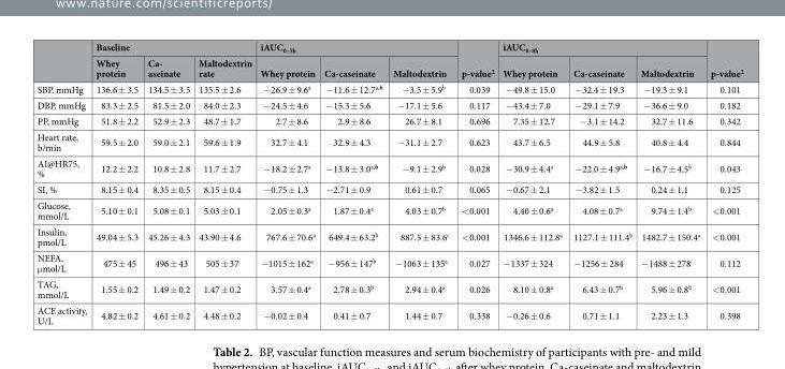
<table><thead><tr><td rowspan="2"></td><td colspan="3">Baseline</td><td colspan="3">iAUC<sub>0–5h</sub></td><td rowspan="2">p-value<sup>2</sup></td><td colspan="3">iAUC<sub>0–8h</sub></td><td rowspan="2">p-value<sup>2</sup></td></tr><tr><td>Whey protein</td><td>Ca- aseinate</td><td>Maltodextrin rate</td><td>Whey protein</td><td>Ca-caseinate</td><td>Maltodextrin</td><td>Whey protein</td><td>Ca-caseinate</td><td>Maltodextrin</td></tr></thead><tbody><tr><td>SBP, mmHg</td><td>136.6 ± 3.5</td><td>134.5 ± 3.5</td><td>135.5 ± 2.6</td><td>−26.9 ± 9.6<sup>a</sup></td><td>−11.6 ± 12.7<sup>a,b</sup></td><td>−3.5 ± 5.9<sup>b</sup></td><td>0.039</td><td>−49.8 ± 15.0</td><td>−32.4 ± 19.3</td><td>−19.3 ± 9.1</td><td>0.101</td></tr><tr><td>DBP, mmHg</td><td>83.3 ± 2.5</td><td>81.5 ± 2.0</td><td>84.0 ± 2.3</td><td>−24.5 ± 4.6</td><td>−15.3 ± 5.6</td><td>−17.1 ± 5.6</td><td>0.117</td><td>−43.4 ± 7.0</td><td>−29.1 ± 7.9</td><td>−36.6 ± 9.0</td><td>0.182</td></tr><tr><td>PP, mmHg</td><td>51.8 ± 2.2</td><td>52.9 ± 2.3</td><td>48.7 ± 1.7</td><td>2.7 ± 8.6</td><td>2.9 ± 8.6</td><td>26.7 ± 8.1</td><td>0.696</td><td>7.35 ± 12.7</td><td>−3.1 ± 14.2</td><td>32.7 ± 11.6</td><td>0.342</td></tr><tr><td>Heart rate, b/min</td><td>59.5 ± 2.0</td><td>59.0 ± 2.1</td><td>59.6 ± 1.9</td><td>32.7 ± 4.1</td><td>32.9 ± 4.3</td><td>−31.1 ± 2.7</td><td>0.623</td><td>43.7 ± 6.5</td><td>44.9 ± 5.8</td><td>40.8 ± 4.4</td><td>0.844</td></tr><tr><td>AI@HR75, %</td><td>12.2 ± 2.2</td><td>10.8 ± 2.8</td><td>11.7 ± 2.7</td><td>−18.2 ± 2.7<sup>a</sup></td><td>−13.8 ± 3.0<sup>a,b</sup></td><td>−9.1 ± 2.9<sup>b</sup></td><td>0.028</td><td>−30.9 ± 4.4<sup>a</sup></td><td>−22.0 ± 4.9<sup>a,b</sup></td><td>−16.7 ± 4.5<sup>b</sup></td><td>0.043</td></tr><tr><td>SI, %</td><td>8.15 ± 0.4</td><td>8.35 ± 0.5</td><td>8.15 ± 0.4</td><td>−0.75 ± 1.3</td><td>−2.71 ± 0.9</td><td>0.61 ± 0.7</td><td>0.065</td><td>−0.67 ± 2.1</td><td>−3.82 ± 1.5</td><td>0.24 ± 1.1</td><td>0.125</td></tr><tr><td>Glucose, mmol/L</td><td>5.10 ± 0.1</td><td>5.08 ± 0.1</td><td>5.03 ± 0.1</td><td>2.05 ± 0.3<sup>a</sup></td><td>1.87 ± 0.4<sup>a</sup></td><td>4.03 ± 0.7<sup>b</sup></td><td>&lt;0.001</td><td>4.40 ± 0.6<sup>a</sup></td><td>4.08 ± 0.7<sup>a</sup></td><td>9.74 ± 1.4<sup>b</sup></td><td>&lt;0.001</td></tr><tr><td>Insulin, pmol/L</td><td>49.04 ± 5.3</td><td>45.26 ± 4.3</td><td>43.90 ± 4.6</td><td>767.6 ± 70.6<sup>a</sup></td><td>649.4 ± 63.2<sup>b</sup></td><td>887.5 ± 83.6<sup>c</sup></td><td>&lt;0.001</td><td>1346.6 ± 112.8<sup>a</sup></td><td>1127.1 ± 111.4<sup>b</sup></td><td>1482.7 ± 150.4<sup>a</sup></td><td>&lt;0.001</td></tr><tr><td>NEFA, μmol/L</td><td>475 ± 45</td><td>496 ± 43</td><td>505 ± 37</td><td>−1015 ± 162<sup>a</sup></td><td>−956 ± 147<sup>b</sup></td><td>−1063 ± 135<sup>a</sup></td><td>0.027</td><td>−1337 ± 324</td><td>−1256 ± 284</td><td>−1488 ± 278</td><td>0.112</td></tr><tr><td>TAG, mmol/L</td><td>1.55 ± 0.2</td><td>1.49 ± 0.2</td><td>1.47 ± 0.2</td><td>3.57 ± 0.4<sup>a</sup></td><td>2.78 ± 0.3<sup>b</sup></td><td>2.94 ± 0.4<sup>a</sup></td><td>0.026</td><td>8.10 ± 0.8<sup>a</sup></td><td>6.43 ± 0.7<sup>b</sup></td><td>5.96 ± 0.8<sup>b</sup></td><td>&lt;0.001</td></tr><tr><td>ACE activity, U/L</td><td>4.82 ± 0.2</td><td>4.61 ± 0.2</td><td>4.48 ± 0.2</td><td>−0.02 ± 0.4</td><td>0.41 ± 0.7</td><td>1.44 ± 0.7</td><td>0.338</td><td>−0.26 ± 0.6</td><td>0.71 ± 1.1</td><td>2.23 ± 1.3</td><td>0.398</td></tr></tbody></table>